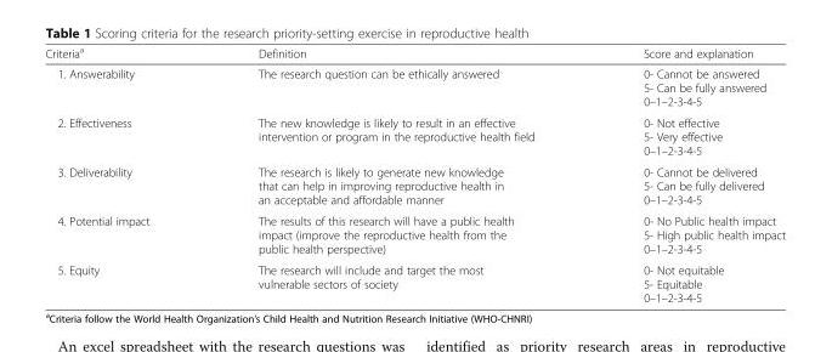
<table><thead><tr><td>Criteria<sup>a</sup></td><td>Definition</td><td>Score and explanation</td></tr></thead><tbody><tr><td>1. Answerability</td><td>The research question can be ethically answered</td><td>0- Cannot be answered 5- Can be fully answered 0–1–2-3-4-5</td></tr><tr><td>2. Effectiveness</td><td>The new knowledge is likely to result in an effective intervention or program in the reproductive health field</td><td>0- Not effective 5- Very effective 0–1–2-3-4-5</td></tr><tr><td>3. Deliverability</td><td>The research is likely to generate new knowledge that can help in improving reproductive health in an acceptable and affordable manner</td><td>0- Cannot be delivered 5- Can be fully delivered 0–1–2-3-4-5</td></tr><tr><td>4. Potential impact</td><td>The results of this research will have a public health impact (improve the reproductive health from the public health perspective)</td><td>0- No Public health impact 5- High public health impact 0–1–2-3-4-5</td></tr><tr><td>5. Equity</td><td>The research will include and target the most vulnerable sectors of society</td><td>0- Not equitable 5- Equitable 0–1–2-3-4-5</td></tr></tbody></table>